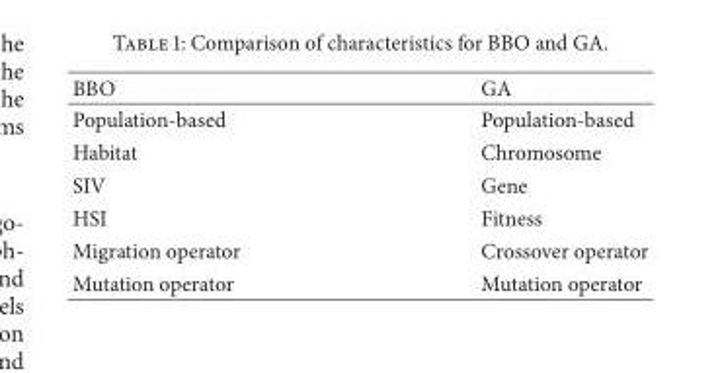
<table><thead><tr><td>BBO</td><td>GA</td></tr></thead><tbody><tr><td>Population-based</td><td>Population-based</td></tr><tr><td>Habitat</td><td>Chromosome</td></tr><tr><td>SIV</td><td>Gene</td></tr><tr><td>HSI</td><td>Fitness</td></tr><tr><td>Migration operator</td><td>Crossover operator</td></tr><tr><td>Mutation operator</td><td>Mutation operator</td></tr></tbody></table>